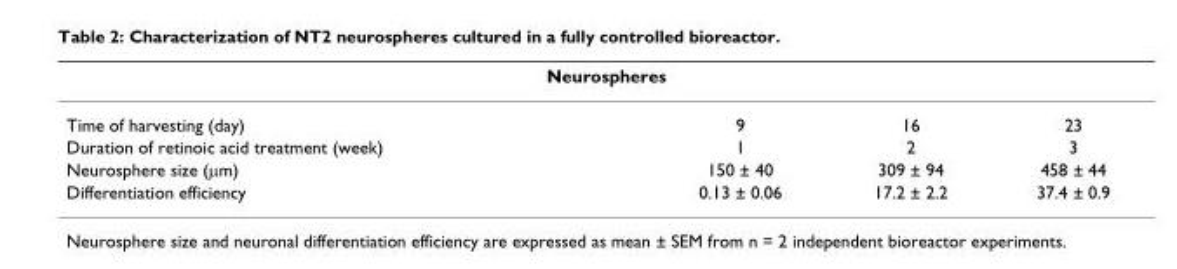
<table><thead><tr><td colspan="4">Neurospheres</td></tr><tr><td>Time of harvesting (day)</td><td>9</td><td>16</td><td>23</td></tr></thead><tbody><tr><td>Duration of retinoic acid treatment (week)</td><td>1</td><td>2</td><td>3</td></tr><tr><td>Neurosphere size (μm)</td><td>150 ± 40</td><td>309 ± 94</td><td>458 ± 44</td></tr><tr><td>Differentiation efficiency</td><td>0.13 ± 0.06</td><td>17.2 ± 2.2</td><td>37.4 ± 0.9</td></tr></tbody></table>